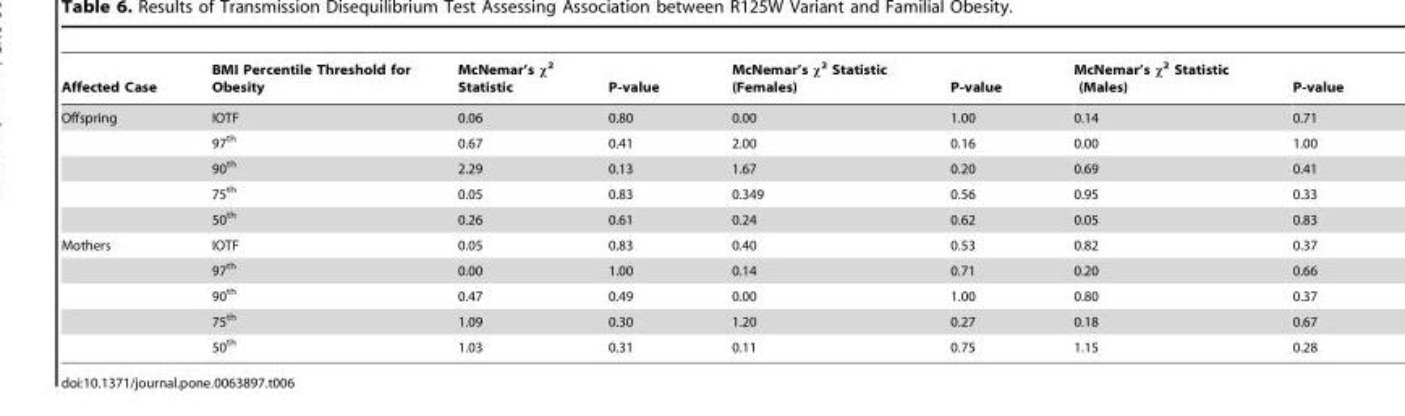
<table><thead><tr><td>Affected Case</td><td>BMI Percentile Threshold for Obesity</td><td>McNemar’s χ<sup>2</sup> Statistic</td><td>P-value</td><td>McNemar’s χ<sup>2</sup> Statistic (Females)</td><td>P-value</td><td>McNemar’s χ<sup>2</sup> Statistic (Males)</td><td>P-value</td></tr></thead><tbody><tr><td rowspan="5">Offspring</td><td>IOTF</td><td>0.06</td><td>0.80</td><td>0.00</td><td>1.00</td><td>0.14</td><td>0.71</td></tr><tr><td>97<sup>th</sup></td><td>0.67</td><td>0.41</td><td>2.00</td><td>0.16</td><td>0.00</td><td>1.00</td></tr><tr><td>90<sup>th</sup></td><td>2.29</td><td>0.13</td><td>1.67</td><td>0.20</td><td>0.69</td><td>0.41</td></tr><tr><td>75<sup>th</sup></td><td>0.05</td><td>0.83</td><td>0.349</td><td>0.56</td><td>0.95</td><td>0.33</td></tr><tr><td>50<sup>th</sup></td><td>0.26</td><td>0.61</td><td>0.24</td><td>0.62</td><td>0.05</td><td>0.83</td></tr><tr><td rowspan="5">Mothers</td><td>IOTF</td><td>0.05</td><td>0.83</td><td>0.40</td><td>0.53</td><td>0.82</td><td>0.37</td></tr><tr><td>97<sup>th</sup></td><td>0.00</td><td>1.00</td><td>0.14</td><td>0.71</td><td>0.20</td><td>0.66</td></tr><tr><td>90<sup>th</sup></td><td>0.47</td><td>0.49</td><td>0.00</td><td>1.00</td><td>0.80</td><td>0.37</td></tr><tr><td>75<sup>th</sup></td><td>1.09</td><td>0.30</td><td>1.20</td><td>0.27</td><td>0.18</td><td>0.67</td></tr><tr><td>50<sup>th</sup></td><td>1.03</td><td>0.31</td><td>0.11</td><td>0.75</td><td>1.15</td><td>0.28</td></tr></tbody></table>